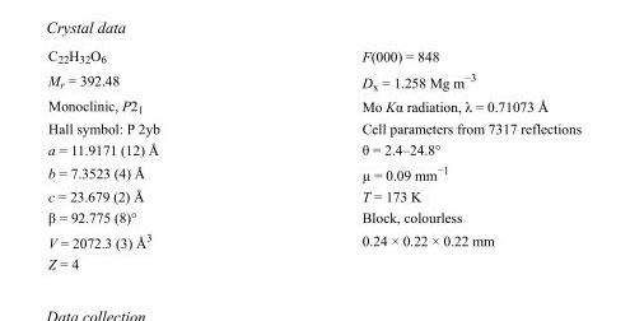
<table><tbody><tr><td>C<sub>22</sub>H<sub>32</sub>O<sub>6</sub></td><td>F(000) = 848</td></tr><tr><td>M<sub>r</sub> = 392.48</td><td>D<sub>x</sub> = 1.258 Mg m<sup>−3</sup></td></tr><tr><td>Monoclinic, P2<sub>1</sub></td><td>Mo Kα radiation, λ = 0.71073 Å</td></tr><tr><td>Hall symbol: P 2yb</td><td>Cell parameters from 7317 reflections</td></tr><tr><td>a = 11.9171 (12) Å</td><td>θ = 2.4–24.8°</td></tr><tr><td>b = 7.3523 (4) Å</td><td>µ = 0.09 mm<sup>−1</sup></td></tr><tr><td>c = 23.679 (2) Å</td><td>T = 173 K</td></tr><tr><td>β = 92.775 (8)°</td><td>Block, colourless</td></tr><tr><td>V = 2072.3 (3) Å<sup>3</sup></td><td>0.24 × 0.22 × 0.22 mm</td></tr><tr><td>Z = 4</td><td></td></tr></tbody></table>